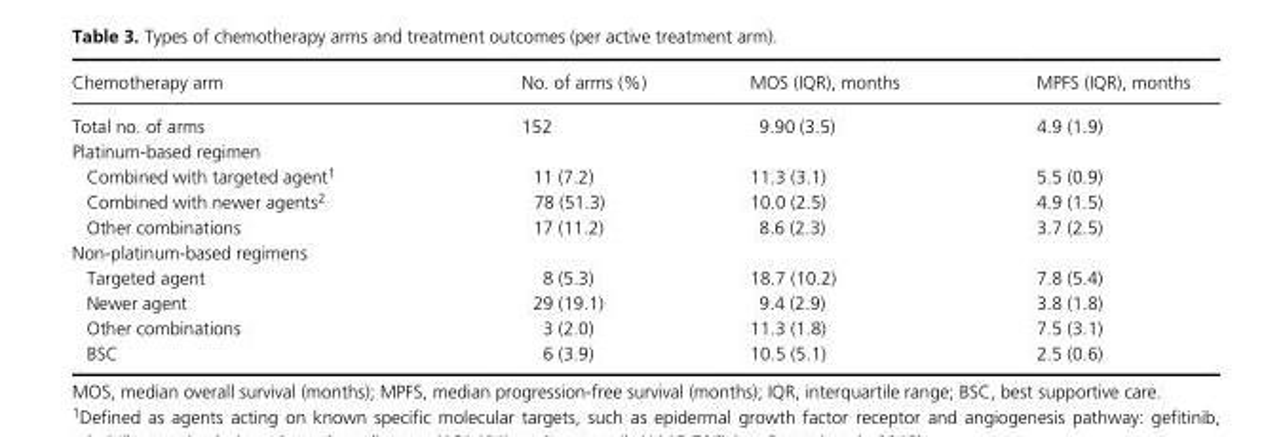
<table><thead><tr><td>Chemotherapy arm</td><td>No. of arms (%)</td><td>MOS (IQR), months</td><td>MPFS (IQR), months</td></tr></thead><tbody><tr><td>Total no. of arms</td><td>152</td><td>9.90 (3.5)</td><td>4.9 (1.9)</td></tr><tr><td colspan="4">Platinum- based regimen</td></tr><tr><td>Combined with targeted agent1</td><td>11 (7.2)</td><td>11.3 (3.1)</td><td>5.5 (0.9)</td></tr><tr><td>Combined with newer agents2</td><td>78 (51.3)</td><td>10.0 (2.5)</td><td>4.9 (1.5)</td></tr><tr><td>Other combinations</td><td>17 (11.2)</td><td>8.6 (2.3)</td><td>3.7 (2.5)</td></tr><tr><td colspan="4">Non- platinum- based regimens</td></tr><tr><td>Targeted agent</td><td>8 (5.3)</td><td>18.7 (10.2)</td><td>7.8 (5.4)</td></tr><tr><td>Newer agent</td><td>29 (19.1)</td><td>9.4 (2.9)</td><td>3.8 (1.8)</td></tr><tr><td>Other combinations</td><td>3 (2.0)</td><td>11.3 (1.8)</td><td>7.5 (3.1)</td></tr><tr><td>BSC</td><td>6 (3.9)</td><td>10.5 (5.1)</td><td>2.5 (0.6)</td></tr></tbody></table>